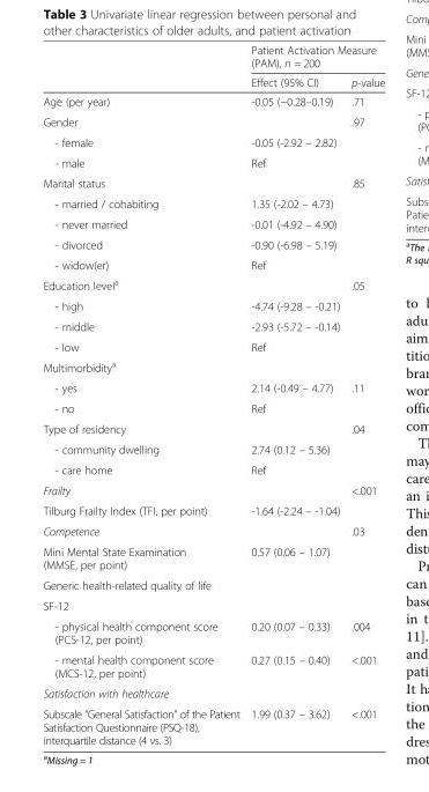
<table><thead><tr><td rowspan="2"></td><td colspan="2">Patient Activation Measure (PAM), n = 200</td></tr><tr><td>Effect (95% CI)</td><td>p-value</td></tr></thead><tbody><tr><td>Age (per year)</td><td>-0.05 (−0.28–0.19)</td><td>.71</td></tr><tr><td colspan="2">Gender</td><td rowspan="3">.97</td></tr><tr><td>- female</td><td>-0.05 (-2.92 – 2.82)</td></tr><tr><td>- male</td><td>Ref</td></tr><tr><td colspan="2">Marital status</td><td rowspan="5">.85</td></tr><tr><td>- married / cohabiting</td><td>1.35 (-2.02 – 4.73)</td></tr><tr><td>- never married</td><td>-0.01 (-4.92 – 4.90)</td></tr><tr><td>- divorced</td><td>-0.90 (-6.98 – 5.19)</td></tr><tr><td>- widow(er)</td><td>Ref</td></tr><tr><td colspan="2">Education level<sup>a</sup></td><td rowspan="4">.05</td></tr><tr><td>- high</td><td>-4.74 (-9.28 – -0.21)</td></tr><tr><td>- middle</td><td>-2.93 (-5.72 – -0.14)</td></tr><tr><td>- low</td><td>Ref</td></tr><tr><td colspan="3">Multimorbidity<sup>a</sup></td></tr><tr><td>- yes</td><td>2.14 (-0.49 – 4.77)</td><td rowspan="2">.11</td></tr><tr><td>- no</td><td>Ref</td></tr><tr><td colspan="2">Type of residency</td><td rowspan="3">.04</td></tr><tr><td>- community dwelling</td><td>2.74 (0.12 – 5.36)</td></tr><tr><td>- care home</td><td>Ref</td></tr><tr><td colspan="2">Frailty</td><td rowspan="2">&lt;.001</td></tr><tr><td>Tilburg Frailty Index (TFI, per point)</td><td>-1.64 (-2.24 – -1.04)</td></tr><tr><td colspan="2">Competence</td><td rowspan="2">.03</td></tr><tr><td>Mini Mental State Examination (MMSE, per point)</td><td>0.57 (0.06 – 1.07)</td></tr><tr><td colspan="3">Generic health-related quality of life</td></tr><tr><td colspan="3">SF-12</td></tr><tr><td>- physical health component score (PCS-12, per point)</td><td>0.20 (0.07 – 0.33)</td><td>.004</td></tr><tr><td>- mental health component score (MCS-12, per point)</td><td>0.27 (0.15 – 0.40)</td><td>&lt;.001</td></tr><tr><td colspan="3">Satisfaction with healthcare</td></tr><tr><td>Subscale “General Satisfaction” of the Patient Satisfaction Questionnaire (PSQ-18), interquartile distance (4 vs. 3)</td><td>1.99 (0.37 – 3.62)</td><td>&lt;.001</td></tr></tbody></table>